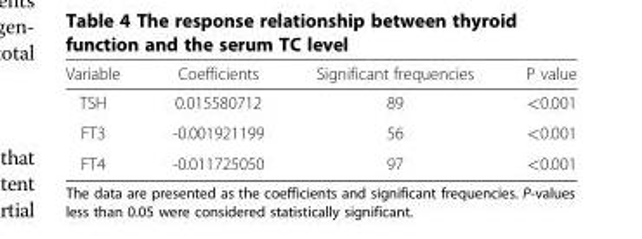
<table><thead><tr><td>Variable</td><td>Coefficients</td><td>Significant frequencies</td><td>P value</td></tr></thead><tbody><tr><td>TSH</td><td>0.015580712</td><td>89</td><td>&lt;0.001</td></tr><tr><td>FT3</td><td>-0.001921199</td><td>56</td><td>&lt;0.001</td></tr><tr><td>FT4</td><td>-0.011725050</td><td>97</td><td>&lt;0.001</td></tr></tbody></table>